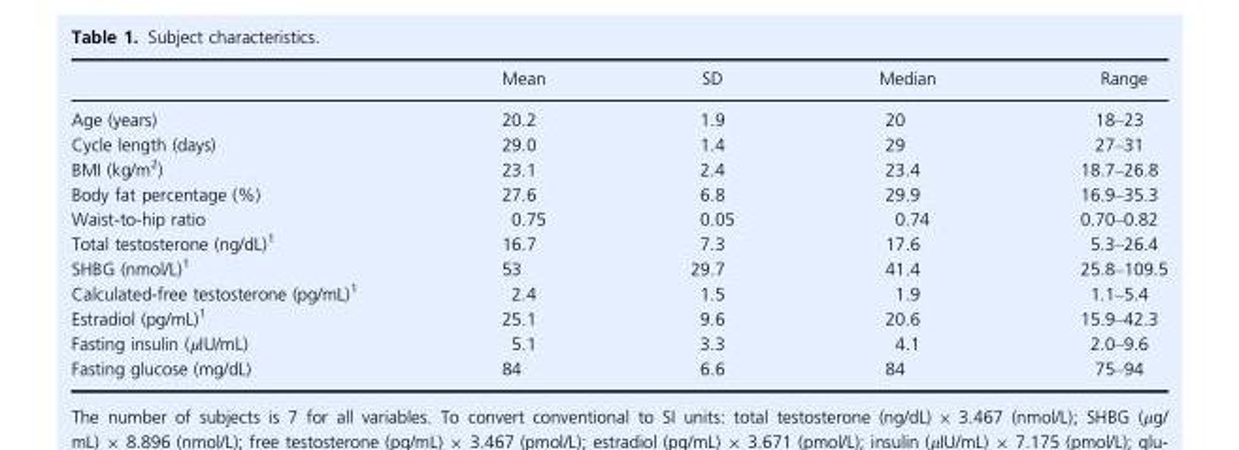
<table><thead><tr><td></td><td>Mean</td><td>SD</td><td>Median</td><td>Range</td></tr></thead><tbody><tr><td>Age (years)</td><td>20.2</td><td>1.9</td><td>20</td><td>18–23</td></tr><tr><td>Cycle length (days)</td><td>29.0</td><td>1.4</td><td>29</td><td>27–31</td></tr><tr><td>BMI (kg/m<sup>2</sup>)</td><td>23.1</td><td>2.4</td><td>23.4</td><td>18.7–26.8</td></tr><tr><td>Body fat percentage (%)</td><td>27.6</td><td>6.8</td><td>29.9</td><td>16.9–35.3</td></tr><tr><td>Waist-to-hip ratio</td><td>0.75</td><td>0.05</td><td>0.74</td><td>0.70–0.82</td></tr><tr><td>Total testosterone (ng/dL)1</td><td>16.7</td><td>7.3</td><td>17.6</td><td>5.3–26.4</td></tr><tr><td>SHBG (nmol/L)1</td><td>53</td><td>29.7</td><td>41.4</td><td>25.8–109.5</td></tr><tr><td>Calculated-free testosterone (pg/mL)1</td><td>2.4</td><td>1.5</td><td>1.9</td><td>1.1–5.4</td></tr><tr><td>Estradiol (pg/mL)1</td><td>25.1</td><td>9.6</td><td>20.6</td><td>15.9–42.3</td></tr><tr><td>Fasting insulin (μIU/mL)</td><td>5.1</td><td>3.3</td><td>4.1</td><td>2.0–9.6</td></tr><tr><td>Fasting glucose (mg/dL)</td><td>84</td><td>6.6</td><td>84</td><td>75–94</td></tr></tbody></table>